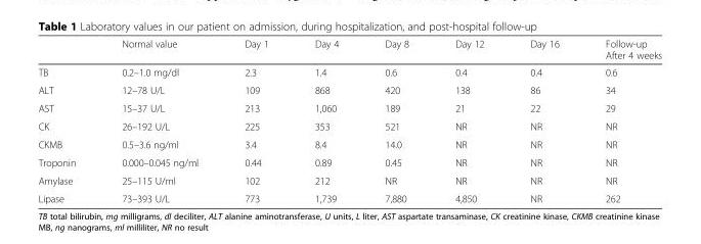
<table><thead><tr><td></td><td>Normal value</td><td>Day 1</td><td>Day 4</td><td>Day 8</td><td>Day 12</td><td>Day 16</td><td>Follow-up After 4 weeks</td></tr></thead><tbody><tr><td>TB</td><td>0.2–1.0 mg/dl</td><td>2.3</td><td>1.4</td><td>0.6</td><td>0.4</td><td>0.4</td><td>0.6</td></tr><tr><td>ALT</td><td>12–78 U/L</td><td>109</td><td>868</td><td>420</td><td>138</td><td>86</td><td>34</td></tr><tr><td>AST</td><td>15–37 U/L</td><td>213</td><td>1,060</td><td>189</td><td>21</td><td>22</td><td>29</td></tr><tr><td>CK</td><td>26–192 U/L</td><td>225</td><td>353</td><td>521</td><td>NR</td><td>NR</td><td>NR</td></tr><tr><td>CKMB</td><td>0.5–3.6 ng/ml</td><td>3.4</td><td>8.4</td><td>14.0</td><td>NR</td><td>NR</td><td>NR</td></tr><tr><td>Troponin</td><td>0.000–0.045 ng/ml</td><td>0.44</td><td>0.89</td><td>0.45</td><td>NR</td><td>NR</td><td>NR</td></tr><tr><td>Amylase</td><td>25–115 U/ml</td><td>102</td><td>212</td><td>NR</td><td>NR</td><td>NR</td><td>NR</td></tr><tr><td>Lipase</td><td>73–393 U/L</td><td>773</td><td>1,739</td><td>7,880</td><td>4,850</td><td>NR</td><td>262</td></tr></tbody></table>